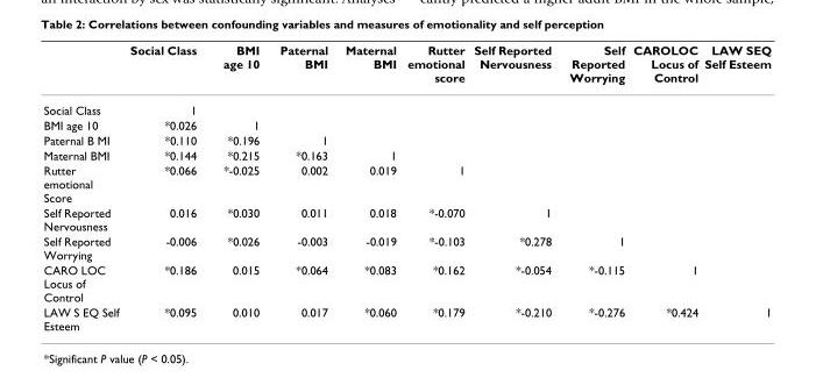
<table><thead><tr><td></td><td>Social Class</td><td>BMI age 10</td><td>Paternal BMI</td><td>Maternal BMI</td><td>Rutter emotional score</td><td>Self Reported Nervousness</td><td>Self Reported Worrying</td><td>CAROLOC Locus of Control</td><td>LAW SEQ Self Esteem</td></tr></thead><tbody><tr><td>Social Class</td><td>1</td><td></td><td></td><td></td><td></td><td></td><td></td><td></td><td></td></tr><tr><td>BMI age 10</td><td>*0.026</td><td>1</td><td></td><td></td><td></td><td></td><td></td><td></td><td></td></tr><tr><td>Paternal B MI</td><td>*0.110</td><td>*0.196</td><td>1</td><td></td><td></td><td></td><td></td><td></td><td></td></tr><tr><td>Maternal BMI</td><td>*0.144</td><td>*0.215</td><td>*0.163</td><td>1</td><td></td><td></td><td></td><td></td><td></td></tr><tr><td>Rutter emotional Score</td><td>*0.066</td><td>*-0.025</td><td>0.002</td><td>0.019</td><td>1</td><td></td><td></td><td></td><td></td></tr><tr><td>Self Reported Nervousness</td><td>0.016</td><td>*0.030</td><td>0.011</td><td>0.018</td><td>*-0.070</td><td>1</td><td></td><td></td><td></td></tr><tr><td>Self Reported Worrying</td><td>-0.006</td><td>*0.026</td><td>-0.003</td><td>-0.019</td><td>*-0.103</td><td>*0.278</td><td>1</td><td></td><td></td></tr><tr><td>CARO LOC Locus of Control</td><td>*0.186</td><td>0.015</td><td>*0.064</td><td>*0.083</td><td>*0.162</td><td>*-0.054</td><td>*-0.115</td><td>1</td><td></td></tr><tr><td>LAW S EQ Self Esteem</td><td>*0.095</td><td>0.010</td><td>0.017</td><td>*0.060</td><td>*0.179</td><td>*-0.210</td><td>*-0.276</td><td>*0.424</td><td>1</td></tr></tbody></table>